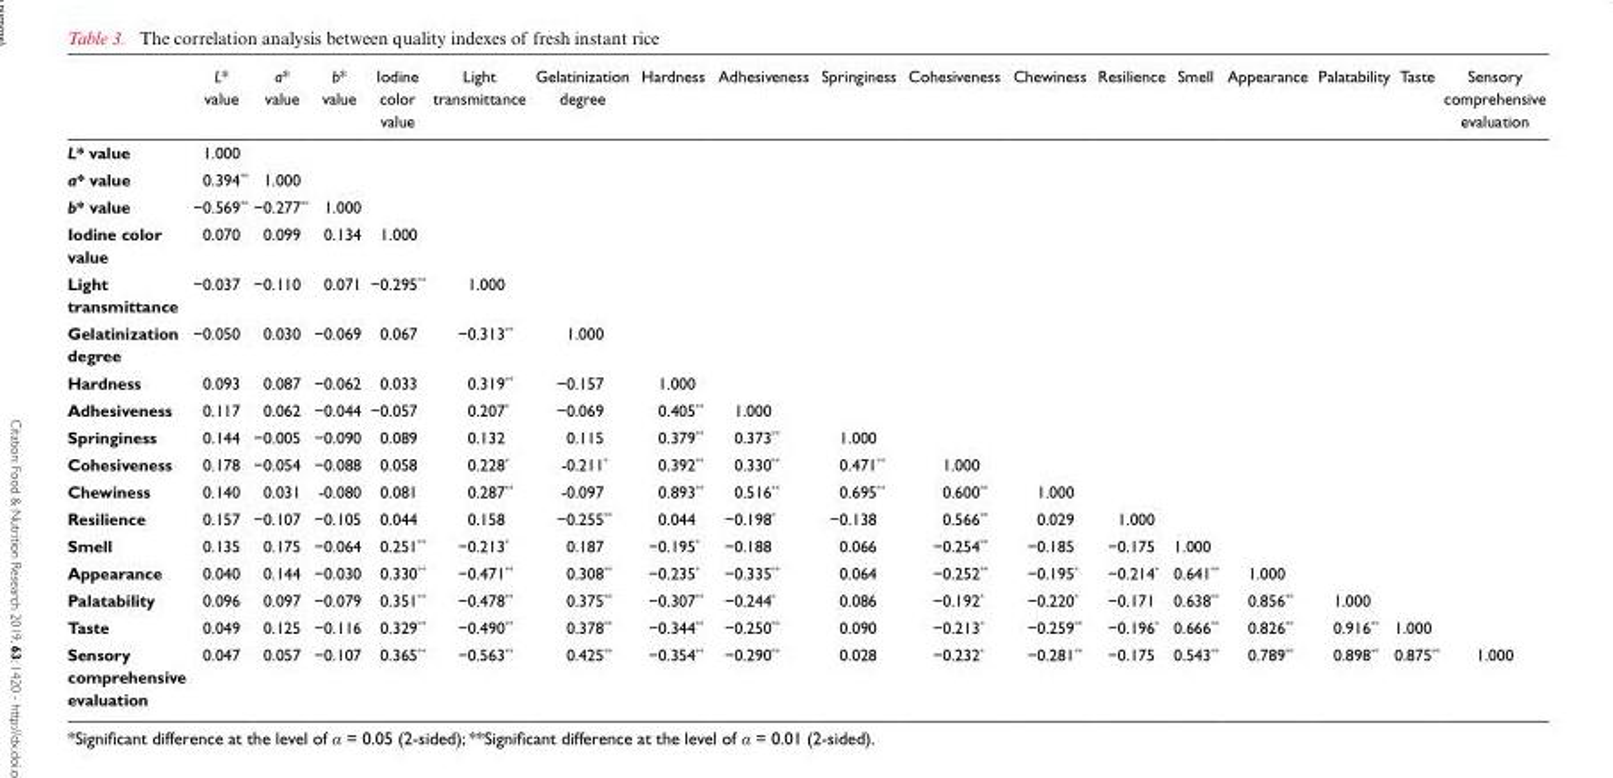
<table><thead><tr><td></td><td>L* value</td><td>a* value</td><td>b* value</td><td>Iodine color value</td><td>Light transmittance</td><td>Gelatinization degree</td><td>Hardness</td><td>Adhesiveness</td><td>Springiness</td><td>Cohesiveness</td><td>Chewiness</td><td>Resilience</td><td>Smell</td><td>Appearance</td><td>Palatability</td><td>Taste</td><td>Sensory comprehensive evaluation</td></tr></thead><tbody><tr><td>L* value</td><td>1.000</td><td></td><td></td><td></td><td></td><td></td><td></td><td></td><td></td><td></td><td></td><td></td><td></td><td></td><td></td><td></td><td></td></tr><tr><td>a* value</td><td>0.394**</td><td>1.000</td><td></td><td></td><td></td><td></td><td></td><td></td><td></td><td></td><td></td><td></td><td></td><td></td><td></td><td></td><td></td></tr><tr><td>b* value</td><td>−0.569**</td><td>−0.277**</td><td>1.000</td><td></td><td></td><td></td><td></td><td></td><td></td><td></td><td></td><td></td><td></td><td></td><td></td><td></td><td></td></tr><tr><td>Iodine color value</td><td>0.070</td><td>0.099</td><td>0.134</td><td>1.000</td><td></td><td></td><td></td><td></td><td></td><td></td><td></td><td></td><td></td><td></td><td></td><td></td><td></td></tr><tr><td>Light transmittance</td><td>−0.037</td><td>−0.110</td><td>0.071</td><td>−0.295**</td><td>1.000</td><td></td><td></td><td></td><td></td><td></td><td></td><td></td><td></td><td></td><td></td><td></td><td></td></tr><tr><td>Gelatinization degree</td><td>−0.050</td><td>0.030</td><td>−0.069</td><td>0.067</td><td>−0.313**</td><td>1.000</td><td></td><td></td><td></td><td></td><td></td><td></td><td></td><td></td><td></td><td></td><td></td></tr><tr><td>Hardness</td><td>0.093</td><td>0.087</td><td>−0.062</td><td>0.033</td><td>0.319**</td><td>−0.157</td><td>1.000</td><td></td><td></td><td></td><td></td><td></td><td></td><td></td><td></td><td></td><td></td></tr><tr><td>Adhesiveness</td><td>0.117</td><td>0.062</td><td>−0.044</td><td>−0.057</td><td>0.207*</td><td>−0.069</td><td>0.405**</td><td>1.000</td><td></td><td></td><td></td><td></td><td></td><td></td><td></td><td></td><td></td></tr><tr><td>Springiness</td><td>0.144</td><td>−0.005</td><td>−0.090</td><td>0.089</td><td>0.132</td><td>0.115</td><td>0.379**</td><td>0.373**</td><td>1.000</td><td></td><td></td><td></td><td></td><td></td><td></td><td></td><td></td></tr><tr><td>Cohesiveness</td><td>0.178</td><td>−0.054</td><td>−0.088</td><td>0.058</td><td>0.228*</td><td>-0.211*</td><td>0.392**</td><td>0.330**</td><td>0.471**</td><td>1.000</td><td></td><td></td><td></td><td></td><td></td><td></td><td></td></tr><tr><td>Chewiness</td><td>0.140</td><td>0.031</td><td>-0.080</td><td>0.081</td><td>0.287**</td><td>-0.097</td><td>0.893**</td><td>0.516**</td><td>0.695**</td><td>0.600**</td><td>1.000</td><td></td><td></td><td></td><td></td><td></td><td></td></tr><tr><td>Resilience</td><td>0.157</td><td>−0.107</td><td>−0.105</td><td>0.044</td><td>0.158</td><td>−0.255**</td><td>0.044</td><td>−0.198*</td><td>−0.138</td><td>0.566**</td><td>0.029</td><td>1.000</td><td></td><td></td><td></td><td></td><td></td></tr><tr><td>Smell</td><td>0.135</td><td>0.175</td><td>−0.064</td><td>0.251**</td><td>−0.213*</td><td>0.187</td><td>−0.195*</td><td>−0.188</td><td>0.066</td><td>−0.254**</td><td>−0.185</td><td>−0.175</td><td>1.000</td><td></td><td></td><td></td><td></td></tr><tr><td>Appearance</td><td>0.040</td><td>0.144</td><td>−0.030</td><td>0.330**</td><td>−0.471**</td><td>0.308**</td><td>−0.235*</td><td>−0.335**</td><td>0.064</td><td>−0.252**</td><td>−0.195*</td><td>−0.214*</td><td>0.641**</td><td>1.000</td><td></td><td></td><td></td></tr><tr><td>Palatability</td><td>0.096</td><td>0.097</td><td>−0.079</td><td>0.351**</td><td>−0.478**</td><td>0.375**</td><td>−0.307**</td><td>−0.244*</td><td>0.086</td><td>−0.192*</td><td>−0.220*</td><td>−0.171</td><td>0.638**</td><td>0.856**</td><td>1.000</td><td></td><td></td></tr><tr><td>Taste</td><td>0.049</td><td>0.125</td><td>−0.116</td><td>0.329**</td><td>−0.490**</td><td>0.378**</td><td>−0.344**</td><td>−0.250**</td><td>0.090</td><td>−0.213*</td><td>−0.259**</td><td>−0.196*</td><td>0.666**</td><td>0.826**</td><td>0.916**</td><td>1.000</td><td></td></tr><tr><td>Sensory comprehensive evaluation</td><td>0.047</td><td>0.057</td><td>−0.107</td><td>0.365**</td><td>−0.563**</td><td>0.425**</td><td>−0.354**</td><td>−0.290**</td><td>0.028</td><td>−0.232*</td><td>−0.281**</td><td>−0.175</td><td>0.543**</td><td>0.789**</td><td>0.898**</td><td>0.875**</td><td>1.000</td></tr></tbody></table>